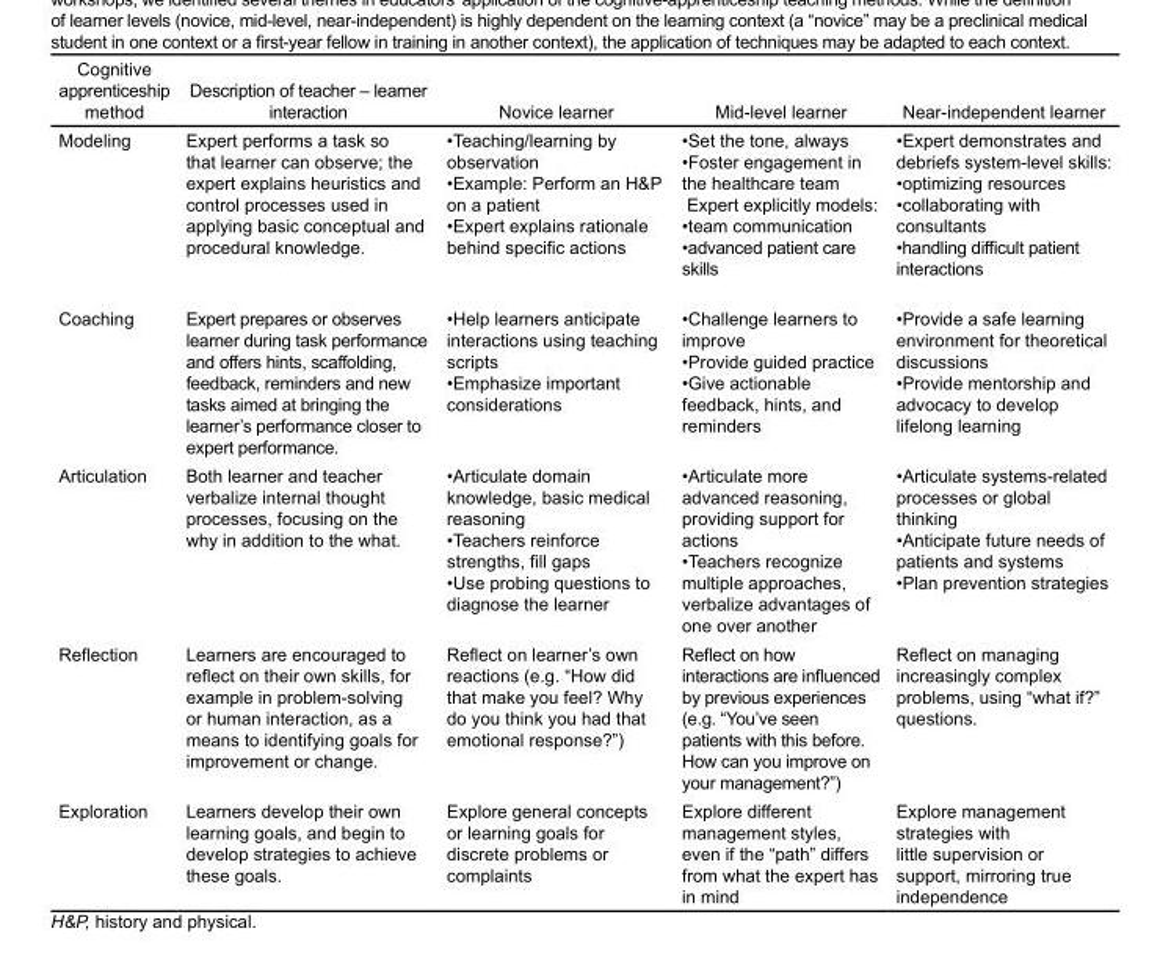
<table><thead><tr><td>Cognitive apprenticeship method</td><td>Description of teacher – learner interaction</td><td>Novice learner</td><td>Mid-level learner</td><td>Near-independent learner</td></tr></thead><tbody><tr><td>Modeling</td><td>Expert performs a task so that learner can observe; the expert explains heuristics and control processes used in applying basic conceptual and procedural knowledge.</td><td>•Teaching/learning by observation •Example: Perform an H&amp;P on a patient •Expert explains rationale behind specific actions</td><td>•Set the tone, always •Foster engagement in the healthcare team Expert explicitly models: •team communication •advanced patient care skills</td><td>•Expert demonstrates and debriefs system-level skills: •optimizing resources •collaborating with consultants •handling difficult patient interactions</td></tr><tr><td>Coaching</td><td>Expert prepares or observes learner during task performance and offers hints, scaffolding, feedback, reminders and new tasks aimed at bringing the learner’s performance closer to expert performance.</td><td>•Help learners anticipate interactions using teaching scripts •Emphasize important considerations</td><td>•Challenge learners to improve •Provide guided practice •Give actionable feedback, hints, and reminders</td><td>•Provide a safe learning environment for theoretical discussions •Provide mentorship and advocacy to develop lifelong learning</td></tr><tr><td>Articulation</td><td>Both learner and teacher verbalize internal thought processes, focusing on the why in addition to the what.</td><td>•Articulate domain knowledge, basic medical reasoning •Teachers reinforce strengths, fill gaps •Use probing questions to diagnose the learner</td><td>•Articulate more advanced reasoning, providing support for actions •Teachers recognize multiple approaches, verbalize advantages of one over another</td><td>•Articulate systems-related processes or global thinking •Anticipate future needs of patients and systems •Plan prevention strategies</td></tr><tr><td>Reflection</td><td>Learners are encouraged to reflect on their own skills, for example in problem-solving or human interaction, as a means to identifying goals for improvement or change.</td><td>Reflect on learner’s own reactions (e.g. “How did that make you feel? Why do you think you had that emotional response?”)</td><td>Reflect on how interactions are influenced by previous experiences (e.g. “You’ve seen patients with this before. How can you improve on your management?”)</td><td>Reflect on managing increasingly complex problems, using “what if?” questions.</td></tr><tr><td>Exploration</td><td>Learners develop their own learning goals, and begin to develop strategies to achieve these goals.</td><td>Explore general concepts or learning goals for discrete problems or complaints</td><td>Explore different management styles, even if the “path” differs from what the expert has in mind</td><td>Explore management strategies with little supervision or support, mirroring true independence</td></tr></tbody></table>